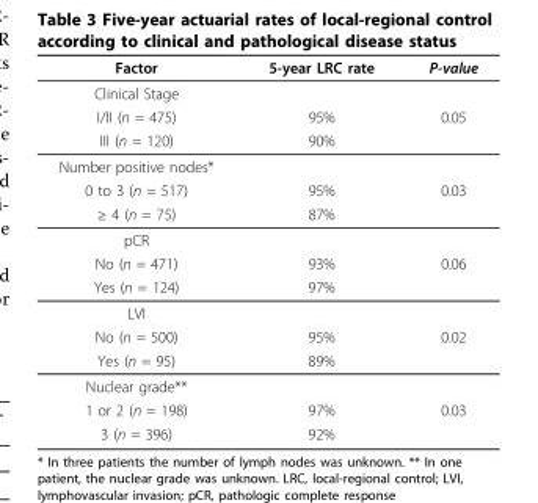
<table><thead><tr><td>Factor</td><td>5-year LRC rate</td><td>P-value</td></tr></thead><tbody><tr><td colspan="3">Clinical Stage</td></tr><tr><td>I/II (n = 475)</td><td>95%</td><td>0.05</td></tr><tr><td>III (n = 120)</td><td>90%</td><td></td></tr><tr><td colspan="3">Number positive nodes*</td></tr><tr><td>0 to 3 (n = 517)</td><td>95%</td><td>0.03</td></tr><tr><td>≥ 4 (n = 75)</td><td>87%</td><td></td></tr><tr><td colspan="3">pCR</td></tr><tr><td>No (n = 471)</td><td>93%</td><td>0.06</td></tr><tr><td>Yes (n = 124)</td><td>97%</td><td></td></tr><tr><td colspan="3">LVI</td></tr><tr><td>No (n = 500)</td><td>95%</td><td>0.02</td></tr><tr><td>Yes (n = 95)</td><td>89%</td><td></td></tr><tr><td colspan="3">Nuclear grade**</td></tr><tr><td>1 or 2 (n = 198)</td><td>97%</td><td>0.03</td></tr><tr><td>3 (n = 396)</td><td>92%</td><td></td></tr></tbody></table>